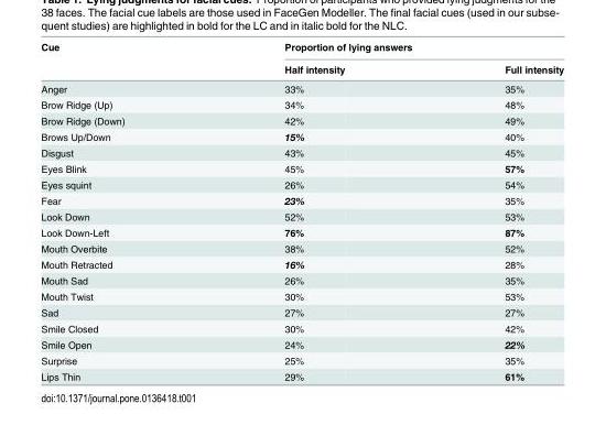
<table><thead><tr><td rowspan="2">Cue</td><td colspan="2">Proportion of lying answers</td></tr><tr><td>Half intensity</td><td>Full intensity</td></tr></thead><tbody><tr><td>Anger</td><td>33%</td><td>35%</td></tr><tr><td>Brow Ridge (Up)</td><td>34%</td><td>48%</td></tr><tr><td>Brow Ridge (Down)</td><td>42%</td><td>49%</td></tr><tr><td>Brows Up/Down</td><td>15%</td><td>40%</td></tr><tr><td>Disgust</td><td>43%</td><td>45%</td></tr><tr><td>Eyes Blink</td><td>45%</td><td>57%</td></tr><tr><td>Eyes squint</td><td>26%</td><td>54%</td></tr><tr><td>Fear</td><td>23%</td><td>35%</td></tr><tr><td>Look Down</td><td>52%</td><td>53%</td></tr><tr><td>Look Down-Left</td><td>76%</td><td>87%</td></tr><tr><td>Mouth Overbite</td><td>38%</td><td>52%</td></tr><tr><td>Mouth Retracted</td><td>16%</td><td>28%</td></tr><tr><td>Mouth Sad</td><td>26%</td><td>35%</td></tr><tr><td>Mouth Twist</td><td>30%</td><td>53%</td></tr><tr><td>Sad</td><td>27%</td><td>27%</td></tr><tr><td>Smile Closed</td><td>30%</td><td>42%</td></tr><tr><td>Smile Open</td><td>24%</td><td>22%</td></tr><tr><td>Surprise</td><td>25%</td><td>35%</td></tr><tr><td>Lips Thin</td><td>29%</td><td>61%</td></tr></tbody></table>